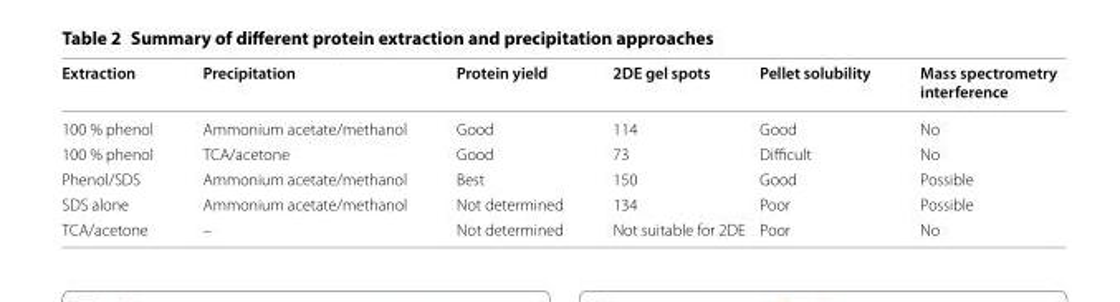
<table><thead><tr><td>Extraction</td><td>Precipitation</td><td>Protein yield</td><td>2DE gel spots</td><td>Pellet solubility</td><td>Mass spectrometry interference</td></tr></thead><tbody><tr><td>100 % phenol</td><td>Ammonium acetate/methanol</td><td>Good</td><td>114</td><td>Good</td><td>No</td></tr><tr><td>100 % phenol</td><td>TCA/acetone</td><td>Good</td><td>73</td><td>Difficult</td><td>No</td></tr><tr><td>Phenol/SDS</td><td>Ammonium acetate/methanol</td><td>Best</td><td>150</td><td>Good</td><td>Possible</td></tr><tr><td>SDS alone</td><td>Ammonium acetate/methanol</td><td>Not determined</td><td>134</td><td>Poor</td><td>Possible</td></tr><tr><td>TCA/acetone</td><td>–</td><td>Not determined</td><td>Not suitable for 2DE</td><td>Poor</td><td>No</td></tr></tbody></table>